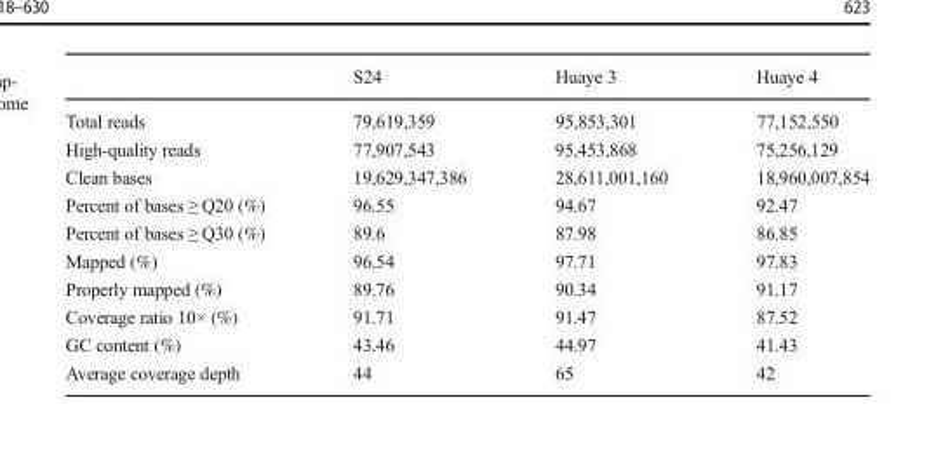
<table><thead><tr><td></td><td>S24</td><td>Huaye 3</td><td>Huaye 4</td></tr></thead><tbody><tr><td>Total reads</td><td>79,619,359</td><td>95,853,301</td><td>77,152,550</td></tr><tr><td>High-quality reads</td><td>77,907,543</td><td>95,453,868</td><td>75,256,129</td></tr><tr><td>Clean bases</td><td>19,629,347,386</td><td>28,611,001,160</td><td>18,960,007,854</td></tr><tr><td>Percent of bases ≥ Q20 (%)</td><td>96.55</td><td>94.67</td><td>92.47</td></tr><tr><td>Percent of bases ≥ Q30 (%)</td><td>89.6</td><td>87.98</td><td>86.85</td></tr><tr><td>Mapped (%)</td><td>96.54</td><td>97.71</td><td>97.83</td></tr><tr><td>Properly mapped (%)</td><td>89.76</td><td>90.34</td><td>91.17</td></tr><tr><td>Coverage ratio 10× (%)</td><td>91.71</td><td>91.47</td><td>87.52</td></tr><tr><td>GC content (%)</td><td>43.46</td><td>44.97</td><td>41.43</td></tr><tr><td>Average coverage depth</td><td>44</td><td>65</td><td>42</td></tr></tbody></table>